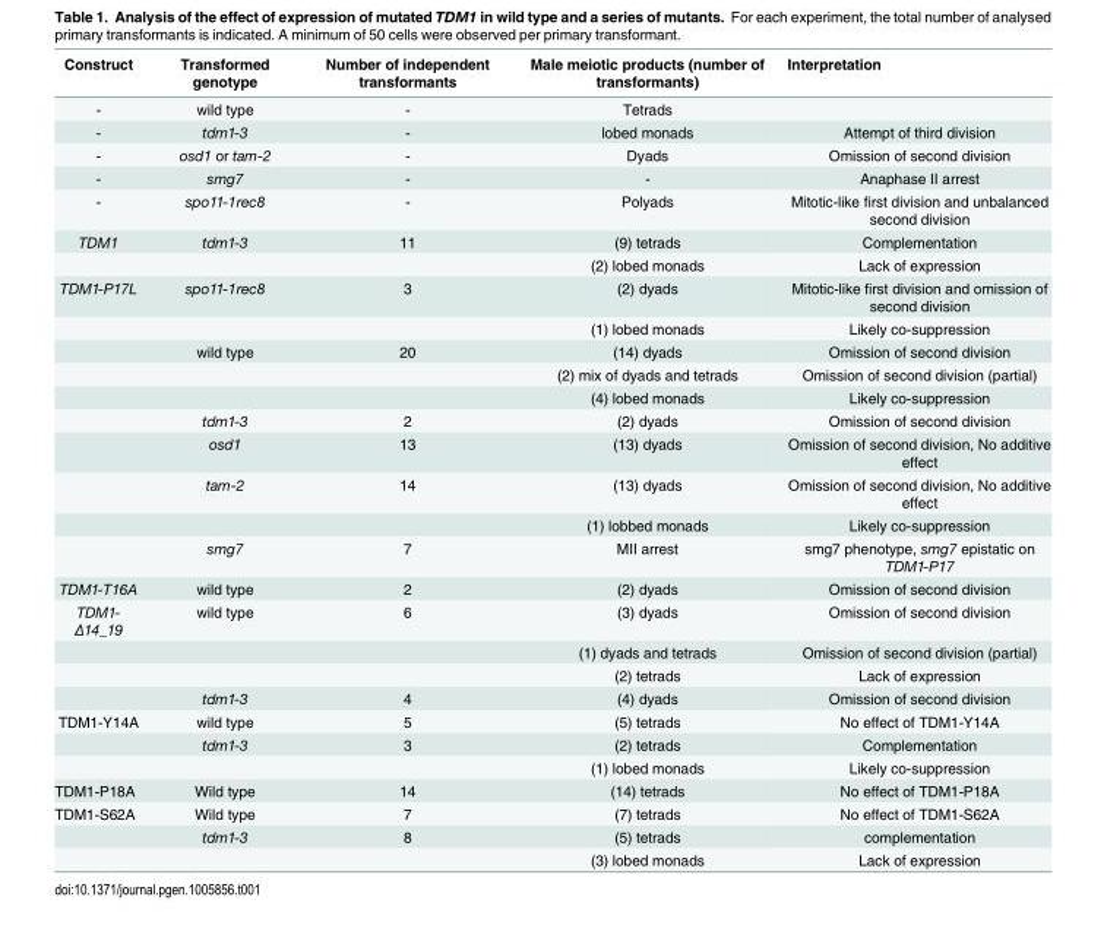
<table><thead><tr><td>Construct</td><td>Transformed genotype</td><td>Number of independent transformants</td><td>Male meiotic products (number of transformants)</td><td>Interpretation</td></tr></thead><tbody><tr><td>-</td><td>wild type</td><td>-</td><td>Tetrads</td><td></td></tr><tr><td>-</td><td>tdm1-3</td><td>-</td><td>lobed monads</td><td>Attempt of third division</td></tr><tr><td>-</td><td>osd1 or tam-2</td><td>-</td><td>Dyads</td><td>Omission of second division</td></tr><tr><td>-</td><td>smg7</td><td>-</td><td>-</td><td>Anaphase II arrest</td></tr><tr><td>-</td><td>spo11-1rec8</td><td>-</td><td>Polyads</td><td>Mitotic-like first division and unbalanced second division</td></tr><tr><td rowspan="2">TDM1</td><td>tdm1-3</td><td>11</td><td>(9) tetrads</td><td>Complementation</td></tr><tr><td></td><td></td><td>(2) lobed monads</td><td>Lack of expression</td></tr><tr><td rowspan="10">TDM1-P17L</td><td>spo11-1rec8</td><td>3</td><td>(2) dyads</td><td>Mitotic-like first division and omission of second division</td></tr><tr><td></td><td></td><td>(1) lobed monads</td><td>Likely co-suppression</td></tr><tr><td>wild type</td><td>20</td><td>(14) dyads</td><td>Omission of second division</td></tr><tr><td></td><td></td><td>(2) mix of dyads and tetrads</td><td>Omission of second division (partial)</td></tr><tr><td></td><td></td><td>(4) lobed monads</td><td>Likely co-suppression</td></tr><tr><td>tdm1-3</td><td>2</td><td>(2) dyads</td><td>Omission of second division</td></tr><tr><td>osd1</td><td>13</td><td>(13) dyads</td><td>Omission of second division, No additive effect</td></tr><tr><td>tam-2</td><td>14</td><td>(13) dyads</td><td>Omission of second division, No additive effect</td></tr><tr><td></td><td></td><td>(1) lobbed monads</td><td>Likely co-suppression</td></tr><tr><td>smg7</td><td>7</td><td>MII arrest</td><td>smg7 phenotype, smg7 epistatic on TDM1-P17</td></tr><tr><td>TDM1-T16A</td><td>wild type</td><td>2</td><td>(2) dyads</td><td>Omission of second division</td></tr><tr><td rowspan="4">TDM1- Δ14_19</td><td>wild type</td><td>6</td><td>(3) dyads</td><td>Omission of second division</td></tr><tr><td></td><td></td><td>(1) dyads and tetrads</td><td>Omission of second division (partial)</td></tr><tr><td></td><td></td><td>(2) tetrads</td><td>Lack of expression</td></tr><tr><td>tdm1-3</td><td>4</td><td>(4) dyads</td><td>Omission of second division</td></tr><tr><td rowspan="3">TDM1-Y14A</td><td>wild type</td><td>5</td><td>(5) tetrads</td><td>No effect of TDM1-Y14A</td></tr><tr><td>tdm1-3</td><td>3</td><td>(2) tetrads</td><td>Complementation</td></tr><tr><td></td><td></td><td>(1) lobed monads</td><td>Likely co-suppression</td></tr><tr><td>TDM1-P18A</td><td>Wild type</td><td>14</td><td>(14) tetrads</td><td>No effect of TDM1-P18A</td></tr><tr><td rowspan="3">TDM1-S62A</td><td>Wild type</td><td>7</td><td>(7) tetrads</td><td>No effect of TDM1-S62A</td></tr><tr><td>tdm1-3</td><td>8</td><td>(5) tetrads</td><td>complementation</td></tr><tr><td></td><td></td><td>(3) lobed monads</td><td>Lack of expression</td></tr></tbody></table>